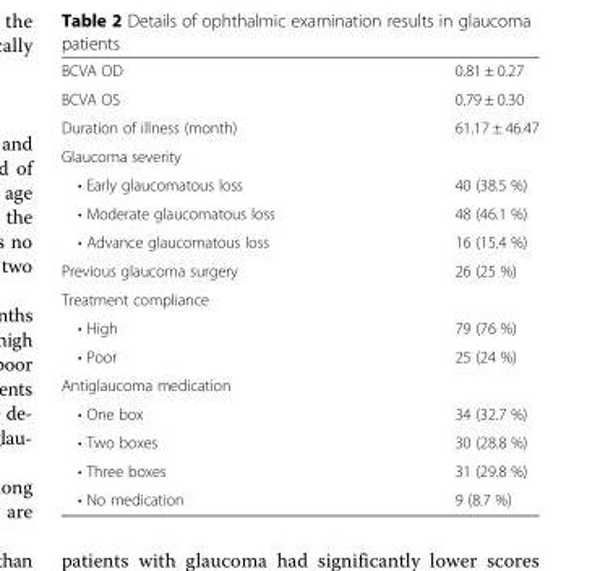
<table><tbody><tr><td>BCVA OD</td><td>0.81 ± 0.27</td></tr><tr><td>BCVA OS</td><td>0.79 ± 0.30</td></tr><tr><td>Duration of illness (month)</td><td>61.17 ± 46.47</td></tr><tr><td colspan="2">Glaucoma severity</td></tr><tr><td>• Early glaucomatous loss</td><td>40 (38.5 %)</td></tr><tr><td>• Moderate glaucomatous loss</td><td>48 (46.1 %)</td></tr><tr><td>• Advance glaucomatous loss</td><td>16 (15.4 %)</td></tr><tr><td>Previous glaucoma surgery</td><td>26 (25 %)</td></tr><tr><td colspan="2">Treatment compliance</td></tr><tr><td>• High</td><td>79 (76 %)</td></tr><tr><td>• Poor</td><td>25 (24 %)</td></tr><tr><td colspan="2">Antiglaucoma medication</td></tr><tr><td>• One box</td><td>34 (32.7 %)</td></tr><tr><td>• Two boxes</td><td>30 (28.8 %)</td></tr><tr><td>• Three boxes</td><td>31 (29.8 %)</td></tr><tr><td>• No medication</td><td>9 (8.7 %)</td></tr></tbody></table>